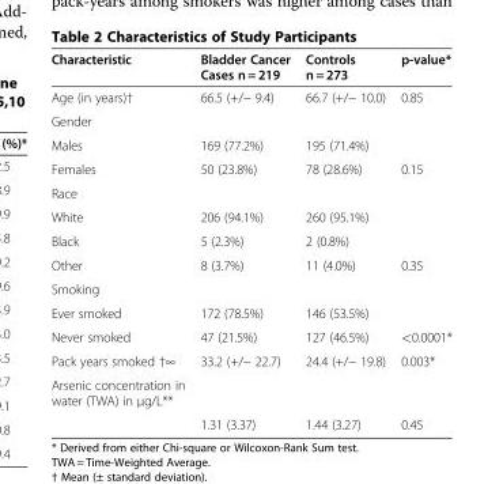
<table><thead><tr><td>Characteristic</td><td>Bladder Cancer Cases n = 219</td><td>Controls n = 273</td><td>p-value*</td></tr></thead><tbody><tr><td>Age (in years)†</td><td>66.5 (+/− 9.4)</td><td>66.7 (+/− 10.0)</td><td>0.85</td></tr><tr><td colspan="4">Gender</td></tr><tr><td>Males</td><td>169 (77.2%)</td><td>195 (71.4%)</td><td></td></tr><tr><td>Females</td><td>50 (23.8%)</td><td>78 (28.6%)</td><td>0.15</td></tr><tr><td colspan="4">Race</td></tr><tr><td>White</td><td>206 (94.1%)</td><td>260 (95.1%)</td><td></td></tr><tr><td>Black</td><td>5 (2.3%)</td><td>2 (0.8%)</td><td></td></tr><tr><td>Other</td><td>8 (3.7%)</td><td>11 (4.0%)</td><td>0.35</td></tr><tr><td colspan="4">Smoking</td></tr><tr><td>Ever smoked</td><td>172 (78.5%)</td><td>146 (53.5%)</td><td></td></tr><tr><td>Never smoked</td><td>47 (21.5%)</td><td>127 (46.5%)</td><td>&lt;0.0001*</td></tr><tr><td>Pack years smoked †∞</td><td>33.2 (+/− 22.7)</td><td>24.4 (+/− 19.8)</td><td>0.003*</td></tr><tr><td colspan="4">Arsenic concentration in water (TWA) in μg/L**</td></tr><tr><td></td><td>1.31 (3.37)</td><td>1.44 (3.27)</td><td>0.45</td></tr></tbody></table>